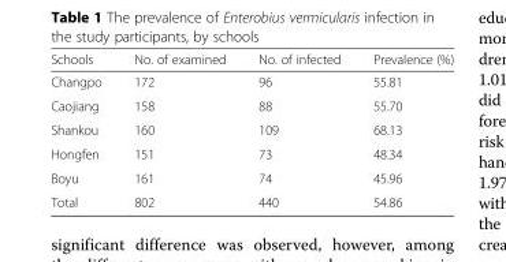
<table><thead><tr><td>Schools</td><td>No. of examined</td><td>No. of infected</td><td>Prevalence (%)</td></tr></thead><tbody><tr><td>Changpo</td><td>172</td><td>96</td><td>55.81</td></tr><tr><td>Caojiang</td><td>158</td><td>88</td><td>55.70</td></tr><tr><td>Shankou</td><td>160</td><td>109</td><td>68.13</td></tr><tr><td>Hongfen</td><td>151</td><td>73</td><td>48.34</td></tr><tr><td>Boyu</td><td>161</td><td>74</td><td>45.96</td></tr><tr><td>Total</td><td>802</td><td>440</td><td>54.86</td></tr></tbody></table>